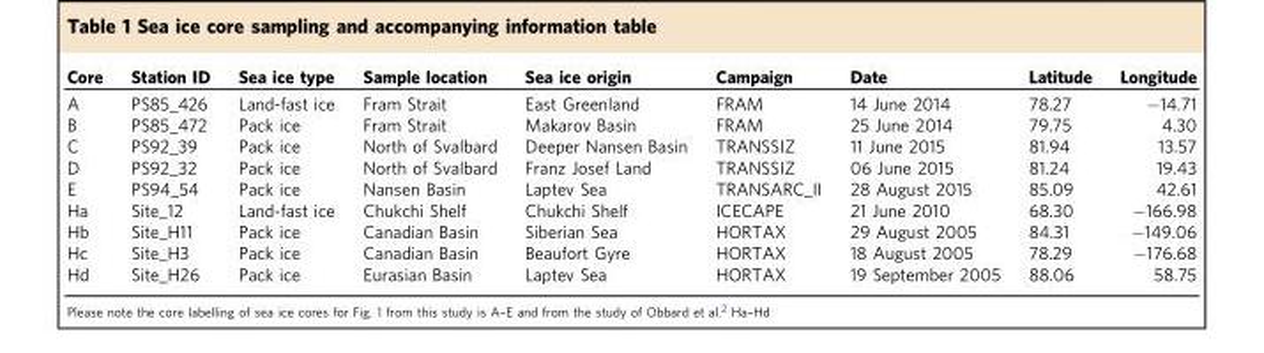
<table><thead><tr><td>Core</td><td>Station ID</td><td>Sea ice type</td><td>Sample location</td><td>Sea ice origin</td><td>Campaign</td><td>Date</td><td>Latitude</td><td>Longitude</td></tr></thead><tbody><tr><td>A</td><td>PS85_426</td><td>Land-fast ice</td><td>Fram Strait</td><td>East Greenland</td><td>FRAM</td><td>14 June 2014</td><td>78.27</td><td>−14.71</td></tr><tr><td>B</td><td>PS85_472</td><td>Pack ice</td><td>Fram Strait</td><td>Makarov Basin</td><td>FRAM</td><td>25 June 2014</td><td>79.75</td><td>4.30</td></tr><tr><td>C</td><td>PS92_39</td><td>Pack ice</td><td>North of Svalbard</td><td>Deeper Nansen Basin</td><td>TRANSSIZ</td><td>11 June 2015</td><td>81.94</td><td>13.57</td></tr><tr><td>D</td><td>PS92_32</td><td>Pack ice</td><td>North of Svalbard</td><td>Franz Josef Land</td><td>TRANSSIZ</td><td>06 June 2015</td><td>81.24</td><td>19.43</td></tr><tr><td>E</td><td>PS94_54</td><td>Pack ice</td><td>Nansen Basin</td><td>Laptev Sea</td><td>TRANSARC_II</td><td>28 August 2015</td><td>85.09</td><td>42.61</td></tr><tr><td>Ha</td><td>Site_12</td><td>Land-fast ice</td><td>Chukchi Shelf</td><td>Chukchi Shelf</td><td>ICECAPE</td><td>21 June 2010</td><td>68.30</td><td>−166.98</td></tr><tr><td>Hb</td><td>Site_H11</td><td>Pack ice</td><td>Canadian Basin</td><td>Siberian Sea</td><td>HORTAX</td><td>29 August 2005</td><td>84.31</td><td>−149.06</td></tr><tr><td>Hc</td><td>Site_H3</td><td>Pack ice</td><td>Canadian Basin</td><td>Beaufort Gyre</td><td>HORTAX</td><td>18 August 2005</td><td>78.29</td><td>−176.68</td></tr><tr><td>Hd</td><td>Site_H26</td><td>Pack ice</td><td>Eurasian Basin</td><td>Laptev Sea</td><td>HORTAX</td><td>19 September 2005</td><td>88.06</td><td>58.75</td></tr></tbody></table>